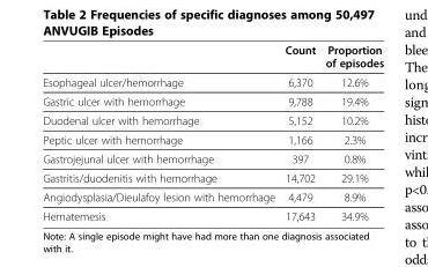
<table><thead><tr><td></td><td>Count</td><td>Proportion of episodes</td></tr></thead><tbody><tr><td>Esophageal ulcer/hemorrhage</td><td>6,370</td><td>12.6%</td></tr><tr><td>Gastric ulcer with hemorrhage</td><td>9,788</td><td>19.4%</td></tr><tr><td>Duodenal ulcer with hemorrhage</td><td>5,152</td><td>10.2%</td></tr><tr><td>Peptic ulcer with hemorrhage</td><td>1,166</td><td>2.3%</td></tr><tr><td>Gastrojejunal ulcer with hemorrhage</td><td>397</td><td>0.8%</td></tr><tr><td>Gastritis/duodenitis with hemorrhage</td><td>14,702</td><td>29.1%</td></tr><tr><td>Angiodysplasia/Dieulafoy lesion with hemorrhage</td><td>4,479</td><td>8.9%</td></tr><tr><td>Hematemesis</td><td>17,643</td><td>34.9%</td></tr></tbody></table>